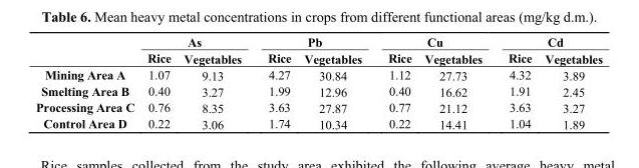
<table><thead><tr><td rowspan="2"></td><td colspan="2">As</td><td colspan="2">Pb</td><td colspan="2">Cu</td><td colspan="2">Cd</td></tr><tr><td>Rice</td><td>Vegetables</td><td>Rice</td><td>Vegetables</td><td>Rice</td><td>Vegetables</td><td>Rice</td><td>Vegetables</td></tr></thead><tbody><tr><td>Mining Area A</td><td>1.07</td><td>9.13</td><td>4.27</td><td>30.84</td><td>1.12</td><td>27.73</td><td>4.32</td><td>3.89</td></tr><tr><td>Smelting Area B</td><td>0.40</td><td>3.27</td><td>1.99</td><td>12.96</td><td>0.40</td><td>16.62</td><td>1.91</td><td>2.45</td></tr><tr><td>Processing Area C</td><td>0.76</td><td>8.35</td><td>3.63</td><td>27.87</td><td>0.77</td><td>21.12</td><td>3.63</td><td>3.27</td></tr><tr><td>Control Area D</td><td>0.22</td><td>3.06</td><td>1.74</td><td>10.34</td><td>0.22</td><td>14.41</td><td>1.04</td><td>1.89</td></tr></tbody></table>